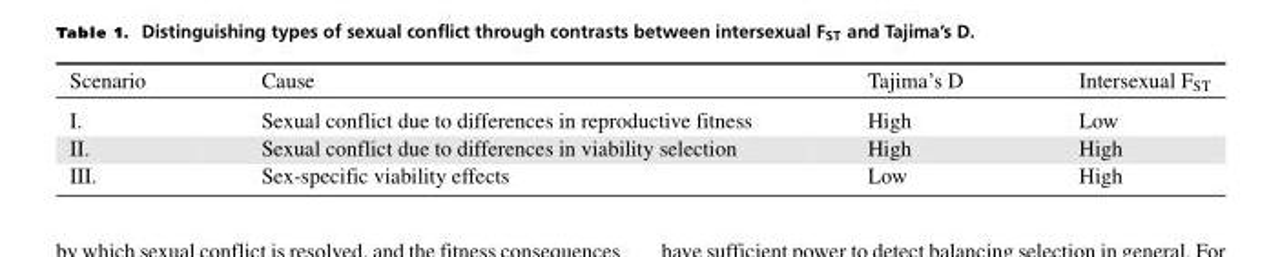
<table><thead><tr><td>Scenario</td><td>Cause</td><td>Tajima’s D</td><td>Intersexual F<sub>ST</sub></td></tr></thead><tbody><tr><td>I.</td><td>Sexual conflict due to differences in reproductive fitness</td><td>High</td><td>Low</td></tr><tr><td>II.</td><td>Sexual conflict due to differences in viability selection</td><td>High</td><td>High</td></tr><tr><td>III.</td><td>Sex-specific viability effects</td><td>Low</td><td>High</td></tr></tbody></table>